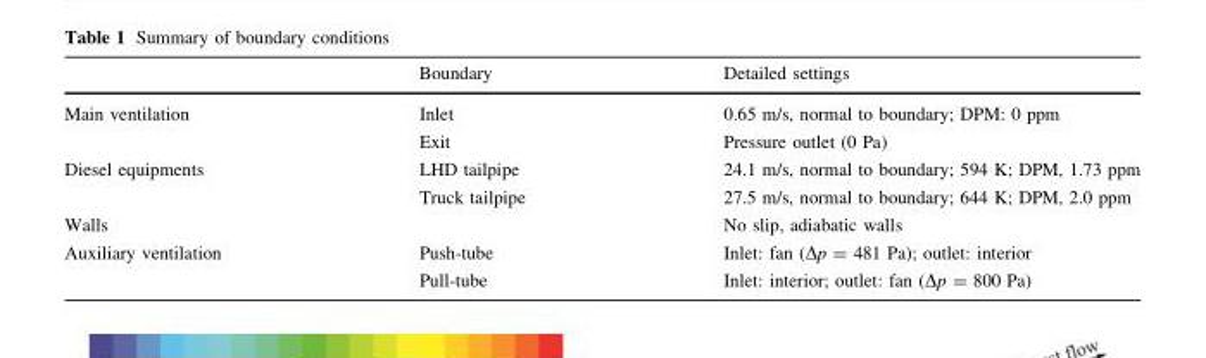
<table><thead><tr><td></td><td>Boundary</td><td>Detailed settings</td></tr></thead><tbody><tr><td rowspan="2">Main ventilation</td><td>Inlet</td><td>0.65 m/s, normal to boundary; DPM: 0 ppm</td></tr><tr><td>Exit</td><td>Pressure outlet (0 Pa)</td></tr><tr><td rowspan="2">Diesel equipments</td><td>LHD tailpipe</td><td>24.1 m/s, normal to boundary; 594 K; DPM, 1.73 ppm</td></tr><tr><td>Truck tailpipe</td><td>27.5 m/s, normal to boundary; 644 K; DPM, 2.0 ppm</td></tr><tr><td>Walls</td><td></td><td>No slip, adiabatic walls</td></tr><tr><td rowspan="2">Auxiliary ventilation</td><td>Push-tube</td><td>Inlet: fan (Δp = 481 Pa); outlet: interior</td></tr><tr><td>Pull-tube</td><td>Inlet: interior; outlet: fan (Δp = 800 Pa)</td></tr></tbody></table>